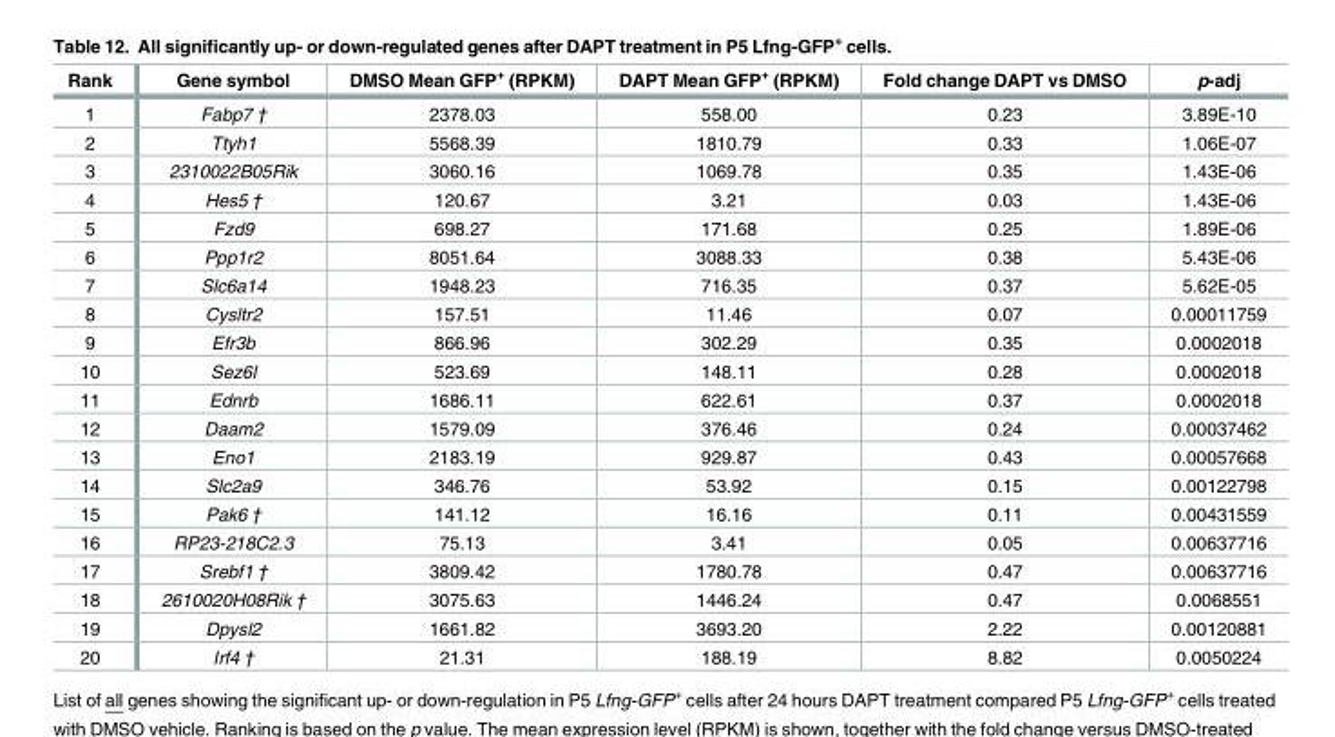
<table><thead><tr><td>Rank</td><td>Gene symbol</td><td>DMSO Mean GFP<sup>+</sup> (RPKM)</td><td>DAPT Mean GFP<sup>+</sup> (RPKM)</td><td>Fold change DAPT vs DMSO</td><td>p-adj</td></tr></thead><tbody><tr><td>1</td><td>Fabp7 †</td><td>2378.03</td><td>558.00</td><td>0.23</td><td>3.89E-10</td></tr><tr><td>2</td><td>Ttyh1</td><td>5568.39</td><td>1810.79</td><td>0.33</td><td>1.06E-07</td></tr><tr><td>3</td><td>2310022B05Rik</td><td>3060.16</td><td>1069.78</td><td>0.35</td><td>1.43E-06</td></tr><tr><td>4</td><td>Hes5 †</td><td>120.67</td><td>3.21</td><td>0.03</td><td>1.43E-06</td></tr><tr><td>5</td><td>Fzd9</td><td>698.27</td><td>171.68</td><td>0.25</td><td>1.89E-06</td></tr><tr><td>6</td><td>Ppp1r2</td><td>8051.64</td><td>3088.33</td><td>0.38</td><td>5.43E-06</td></tr><tr><td>7</td><td>Slc6a14</td><td>1948.23</td><td>716.35</td><td>0.37</td><td>5.62E-05</td></tr><tr><td>8</td><td>Cysltr2</td><td>157.51</td><td>11.46</td><td>0.07</td><td>0.00011759</td></tr><tr><td>9</td><td>Efr3b</td><td>866.96</td><td>302.29</td><td>0.35</td><td>0.0002018</td></tr><tr><td>10</td><td>Sez6l</td><td>523.69</td><td>148.11</td><td>0.28</td><td>0.0002018</td></tr><tr><td>11</td><td>Ednrb</td><td>1686.11</td><td>622.61</td><td>0.37</td><td>0.0002018</td></tr><tr><td>12</td><td>Daam2</td><td>1579.09</td><td>376.46</td><td>0.24</td><td>0.00037462</td></tr><tr><td>13</td><td>Eno1</td><td>2183.19</td><td>929.87</td><td>0.43</td><td>0.00057668</td></tr><tr><td>14</td><td>Slc2a9</td><td>346.76</td><td>53.92</td><td>0.15</td><td>0.00122798</td></tr><tr><td>15</td><td>Pak6 †</td><td>141.12</td><td>16.16</td><td>0.11</td><td>0.00431559</td></tr><tr><td>16</td><td>RP23-218C2.3</td><td>75.13</td><td>3.41</td><td>0.05</td><td>0.00637716</td></tr><tr><td>17</td><td>Srebf1 †</td><td>3809.42</td><td>1780.78</td><td>0.47</td><td>0.00637716</td></tr><tr><td>18</td><td>2610020H08Rik †</td><td>3075.63</td><td>1446.24</td><td>0.47</td><td>0.0068551</td></tr><tr><td>19</td><td>Dpysl2</td><td>1661.82</td><td>3693.20</td><td>2.22</td><td>0.00120881</td></tr><tr><td>20</td><td>Irf4 †</td><td>21.31</td><td>188.19</td><td>8.82</td><td>0.0050224</td></tr></tbody></table>